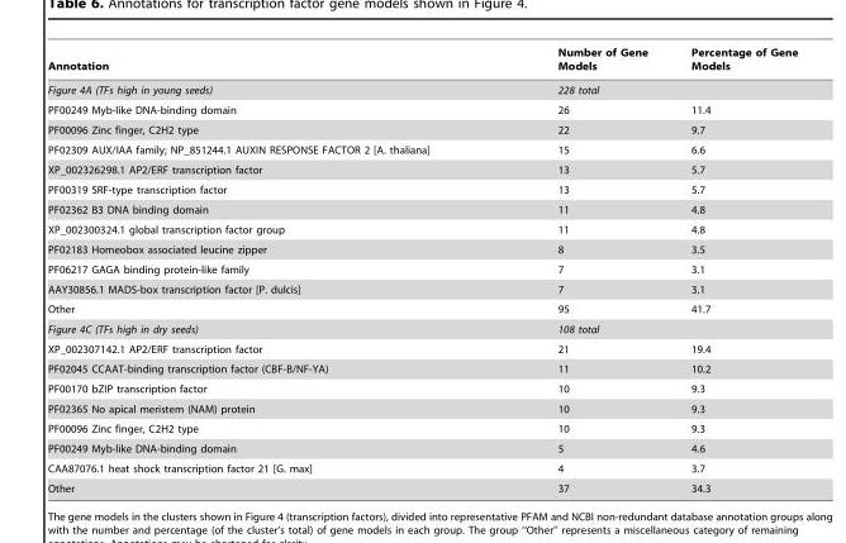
<table><thead><tr><td>Annotation</td><td>Number of Gene Models</td><td>Percentage of Gene Models</td></tr></thead><tbody><tr><td>Figure 4A (TFs high in young seeds)</td><td>228 total</td><td></td></tr><tr><td>PF00249 Myb-like DNA-binding domain</td><td>26</td><td>11.4</td></tr><tr><td>PF00096 Zinc finger, C2H2 type</td><td>22</td><td>9.7</td></tr><tr><td>PF02309 AUX/IAA family; NP_851244.1 AUXIN RESPONSE FACTOR 2 [A. thaliana]</td><td>15</td><td>6.6</td></tr><tr><td>XP_002326298.1 AP2/ERF transcription factor</td><td>13</td><td>5.7</td></tr><tr><td>PF00319 SRF-type transcription factor</td><td>13</td><td>5.7</td></tr><tr><td>PF02362 B3 DNA binding domain</td><td>11</td><td>4.8</td></tr><tr><td>XP_002300324.1 global transcription factor group</td><td>11</td><td>4.8</td></tr><tr><td>PF02183 Homeobox associated leucine zipper</td><td>8</td><td>3.5</td></tr><tr><td>PF06217 GAGA binding protein-like family</td><td>7</td><td>3.1</td></tr><tr><td>AAY30856.1 MADS-box transcription factor [P. dulcis]</td><td>7</td><td>3.1</td></tr><tr><td>Other</td><td>95</td><td>41.7</td></tr><tr><td>Figure 4C (TFs high in dry seeds)</td><td>108 total</td><td></td></tr><tr><td>XP_002307142.1 AP2/ERF transcription factor</td><td>21</td><td>19.4</td></tr><tr><td>PF02045 CCAAT-binding transcription factor (CBF-B/NF-YA)</td><td>11</td><td>10.2</td></tr><tr><td>PF00170 bZIP transcription factor</td><td>10</td><td>9.3</td></tr><tr><td>PF02365 No apical meristem (NAM) protein</td><td>10</td><td>9.3</td></tr><tr><td>PF00096 Zinc finger, C2H2 type</td><td>10</td><td>9.3</td></tr><tr><td>PF00249 Myb-like DNA-binding domain</td><td>5</td><td>4.6</td></tr><tr><td>CAA87076.1 heat shock transcription factor 21 [G. max]</td><td>4</td><td>3.7</td></tr><tr><td>Other</td><td>37</td><td>34.3</td></tr></tbody></table>